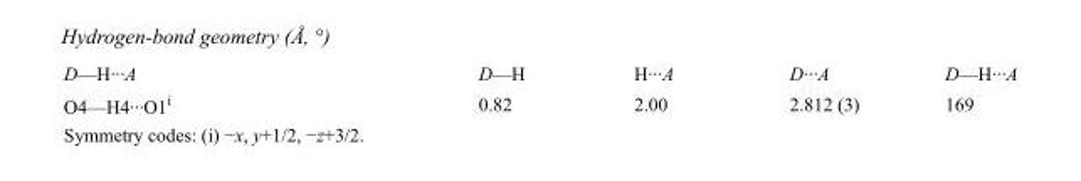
<table><tbody><tr><td>D—H···A</td><td>D—H</td><td>H···A</td><td>D···A</td><td>D—H···A</td></tr><tr><td>O4—H4···O1<sup>i</sup></td><td>0.82</td><td>2.00</td><td>2.812 (3)</td><td>169</td></tr></tbody></table>